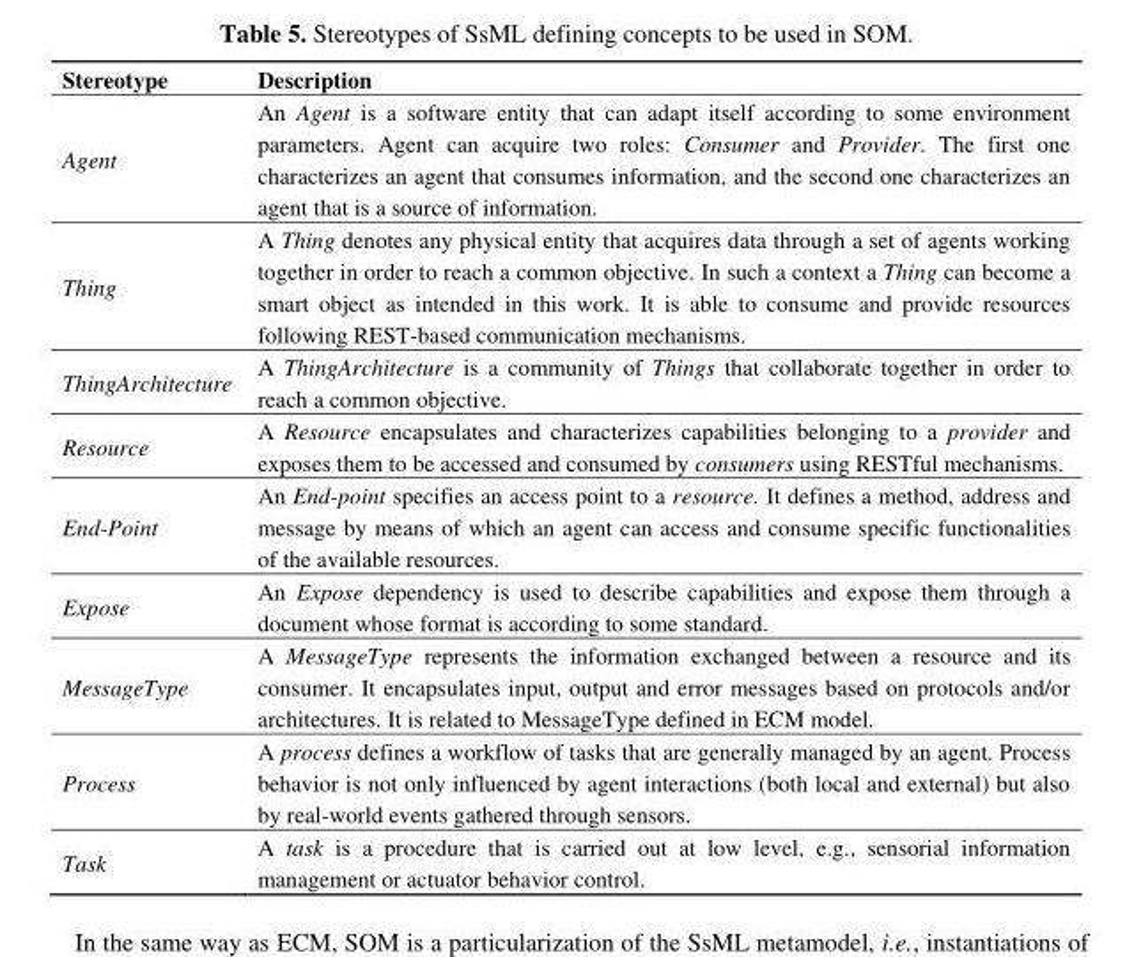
<table><thead><tr><td>Stereotype</td><td>Description</td></tr></thead><tbody><tr><td>Agent</td><td>An Agent is a software entity that can adapt itself according to some environment parameters. Agent can acquire two roles: Consumer and Provider. The first one characterizes an agent that consumes information, and the second one characterizes an agent that is a source of information.</td></tr><tr><td>Thing</td><td>A Thing denotes any physical entity that acquires data through a set of agents working together in order to reach a common objective. In such a context a Thing can become a smart object as intended in this work. It is able to consume and provide resources following REST-based communication mechanisms.</td></tr><tr><td>ThingArchitecture</td><td>A ThingArchitecture is a community of Things that collaborate together in order to reach a common objective.</td></tr><tr><td>Resource</td><td>A Resource encapsulates and characterizes capabilities belonging to a provider and exposes them to be accessed and consumed by consumers using RESTful mechanisms.</td></tr><tr><td>End-Point</td><td>An End-point specifies an access point to a resource. It defines a method, address and message by means of which an agent can access and consume specific functionalities of the available resources.</td></tr><tr><td>Expose</td><td>An Expose dependency is used to describe capabilities and expose them through a document whose format is according to some standard.</td></tr><tr><td>MessageType</td><td>A MessageType represents the information exchanged between a resource and its consumer. It encapsulates input, output and error messages based on protocols and/or architectures. It is related to MessageType defined in ECM model.</td></tr><tr><td>Process</td><td>A process defines a workflow of tasks that are generally managed by an agent. Process behavior is not only influenced by agent interactions (both local and external) but also by real-world events gathered through sensors.</td></tr><tr><td>Task</td><td>A task is a procedure that is carried out at low level, e.g., sensorial information management or actuator behavior control.</td></tr></tbody></table>